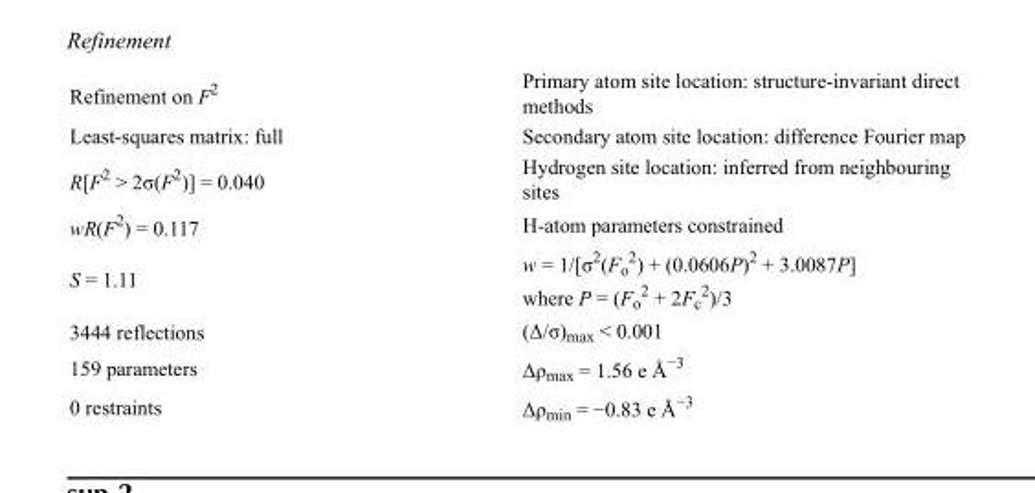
<table><tbody><tr><td>Refinement on F<sup>2</sup></td><td>Primary atom site location: structure-invariant direct methods</td></tr><tr><td>Least-squares matrix: full</td><td>Secondary atom site location: difference Fourier map</td></tr><tr><td>R[F<sup>2</sup> &gt; 2σ(F<sup>2</sup>)] = 0.040</td><td>Hydrogen site location: inferred from neighbouring sites</td></tr><tr><td>wR(F<sup>2</sup>) = 0.117</td><td>H-atom parameters constrained</td></tr><tr><td>S = 1.11</td><td>w = 1/[σ<sup>2</sup>(F<sub>o</sub> <sup>2</sup>) + (0.0606P)<sup>2</sup> + 3.0087P] where P = (F<sub>o</sub> <sup>2</sup> + 2F<sub>c</sub> <sup>2</sup>)/3</td></tr><tr><td>3444 reflections</td><td>(Δ/σ)<sub>max</sub> &lt; 0.001</td></tr><tr><td>159 parameters</td><td>Δρ<sub>max</sub> = 1.56 e Å<sup>−3</sup></td></tr><tr><td>0 restraints</td><td>Δρ<sub>min</sub> = −0.83 e Å<sup>−3</sup></td></tr></tbody></table>